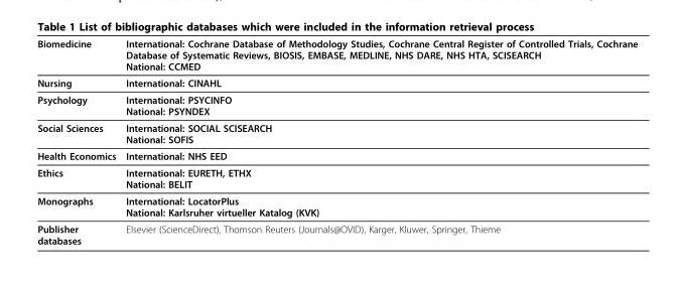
<table><thead><tr><td>Biomedicine</td><td>International: Cochrane Database of Methodology Studies, Cochrane Central Register of Controlled Trials, Cochrane Database of Systematic Reviews, BIOSIS, EMBASE, MEDLINE, NHS DARE, NHS HTA, SCISEARCH National: CCMED</td></tr></thead><tbody><tr><td>Nursing</td><td>International: CINAHL</td></tr><tr><td>Psychology</td><td>International: PSYCINFO National: PSYNDEX</td></tr><tr><td>Social Sciences</td><td>International: SOCIAL SCISEARCH National: SOFIS</td></tr><tr><td>Health Economics</td><td>International: NHS EED</td></tr><tr><td>Ethics</td><td>International: EURETH, ETHX National: BELIT</td></tr><tr><td>Monographs</td><td>International: LocatorPlus National: Karlsruher virtueller Katalog (KVK)</td></tr><tr><td>Publisher databases</td><td>Elsevier (ScienceDirect), Thomson Reuters (Journals@OVID), Karger, Kluwer, Springer, Thieme</td></tr></tbody></table>